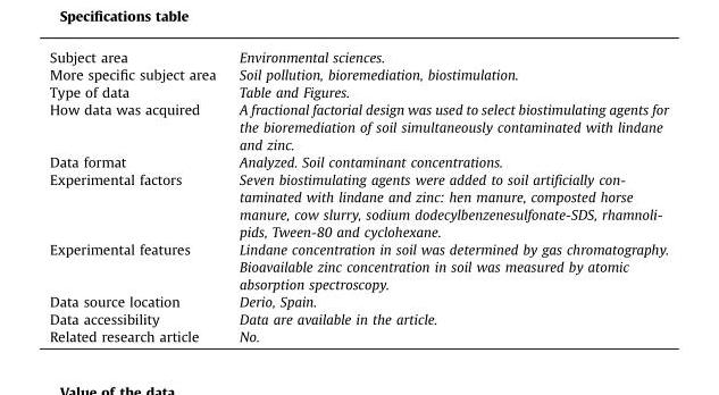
<table><thead><tr><td>Subject area</td><td>Environmental sciences.</td></tr></thead><tbody><tr><td>More specific subject area</td><td>Soil pollution, bioremediation, biostimulation.</td></tr><tr><td>Type of data</td><td>Table and Figures.</td></tr><tr><td>How data was acquired</td><td>A fractional factorial design was used to select biostimulating agents for the bioremediation of soil simultaneously contaminated with lindane and zinc.</td></tr><tr><td>Data format</td><td>Analyzed. Soil contaminant concentrations.</td></tr><tr><td>Experimental factors</td><td>Seven biostimulating agents were added to soil artificially con- taminated with lindane and zinc: hen manure, composted horse manure, cow slurry, sodium dodecylbenzenesulfonate-SDS, rhamnoli- pids, Tween-80 and cyclohexane.</td></tr><tr><td>Experimental features</td><td>Lindane concentration in soil was determined by gas chromatography. Bioavailable zinc concentration in soil was measured by atomic absorption spectroscopy.</td></tr><tr><td>Data source location</td><td>Derio, Spain.</td></tr><tr><td>Data accessibility</td><td>Data are available in the article.</td></tr><tr><td>Related research article</td><td>No.</td></tr></tbody></table>